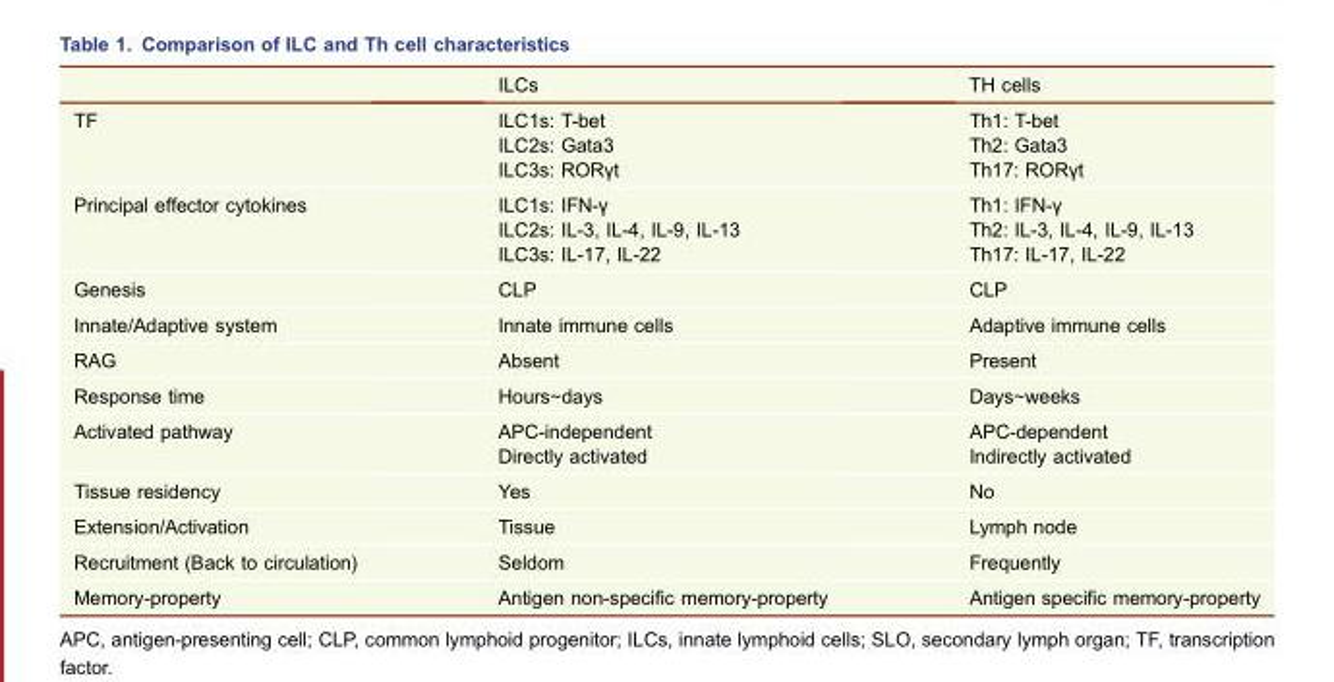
<table><thead><tr><td></td><td>ILCs</td><td>TH cells</td></tr></thead><tbody><tr><td>TF</td><td>ILC1s: T-bet ILC2s: Gata3 ILC3s: RORγt</td><td>Th1: T-bet Th2: Gata3 Th17: RORγt</td></tr><tr><td>Principal effector cytokines</td><td>ILC1s: IFN-γ ILC2s: IL-3, IL-4, IL-9, IL-13 ILC3s: IL-17, IL-22</td><td>Th1: IFN-γ Th2: IL-3, IL-4, IL-9, IL-13 Th17: IL-17, IL-22</td></tr><tr><td>Genesis</td><td>CLP</td><td>CLP</td></tr><tr><td>Innate/Adaptive system</td><td>Innate immune cells</td><td>Adaptive immune cells</td></tr><tr><td>RAG</td><td>Absent</td><td>Present</td></tr><tr><td>Response time</td><td>Hours∼days</td><td>Days∼weeks</td></tr><tr><td>Activated pathway</td><td>APC-independent Directly activated</td><td>APC-dependent Indirectly activated</td></tr><tr><td>Tissue residency</td><td>Yes</td><td>No</td></tr><tr><td>Extension/Activation</td><td>Tissue</td><td>Lymph node</td></tr><tr><td>Recruitment (Back to circulation)</td><td>Seldom</td><td>Frequently</td></tr><tr><td>Memory-property</td><td>Antigen non-specific memory-property</td><td>Antigen specific memory-property</td></tr></tbody></table>